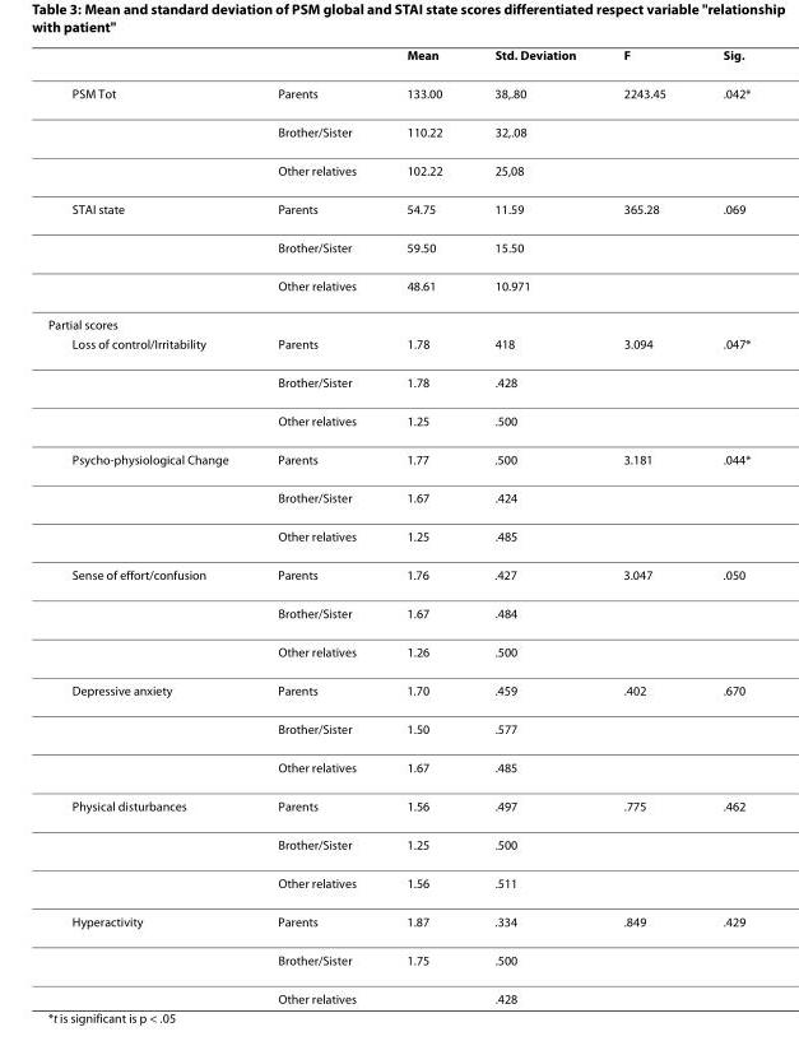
<table><thead><tr><td></td><td></td><td>Mean</td><td>Std. Deviation</td><td>F</td><td>Sig.</td></tr></thead><tbody><tr><td rowspan="3">PSM Tot</td><td>Parents</td><td>133.00</td><td>38,.80</td><td>2243.45</td><td>.042*</td></tr><tr><td>Brother/Sister</td><td>110.22</td><td>32,.08</td><td></td><td></td></tr><tr><td>Other relatives</td><td>102.22</td><td>25,08</td><td></td><td></td></tr><tr><td rowspan="3">STAI state</td><td>Parents</td><td>54.75</td><td>11.59</td><td>365.28</td><td>.069</td></tr><tr><td>Brother/Sister</td><td>59.50</td><td>15.50</td><td></td><td></td></tr><tr><td>Other relatives</td><td>48.61</td><td>10.971</td><td></td><td></td></tr><tr><td colspan="6">Partial scores</td></tr><tr><td rowspan="3">Loss of control/Irritability</td><td>Parents</td><td>1.78</td><td>418</td><td>3.094</td><td>.047*</td></tr><tr><td>Brother/Sister</td><td>1.78</td><td>.428</td><td></td><td></td></tr><tr><td>Other relatives</td><td>1.25</td><td>.500</td><td></td><td></td></tr><tr><td rowspan="3">Psycho-physiological Change</td><td>Parents</td><td>1.77</td><td>.500</td><td>3.181</td><td>.044*</td></tr><tr><td>Brother/Sister</td><td>1.67</td><td>.424</td><td></td><td></td></tr><tr><td>Other relatives</td><td>1.25</td><td>.485</td><td></td><td></td></tr><tr><td rowspan="3">Sense of effort/confusion</td><td>Parents</td><td>1.76</td><td>.427</td><td>3.047</td><td>.050</td></tr><tr><td>Brother/Sister</td><td>1.67</td><td>.484</td><td></td><td></td></tr><tr><td>Other relatives</td><td>1.26</td><td>.500</td><td></td><td></td></tr><tr><td rowspan="3">Depressive anxiety</td><td>Parents</td><td>1.70</td><td>.459</td><td>.402</td><td>.670</td></tr><tr><td>Brother/Sister</td><td>1.50</td><td>.577</td><td></td><td></td></tr><tr><td>Other relatives</td><td>1.67</td><td>.485</td><td></td><td></td></tr><tr><td rowspan="3">Physical disturbances</td><td>Parents</td><td>1.56</td><td>.497</td><td>.775</td><td>.462</td></tr><tr><td>Brother/Sister</td><td>1.25</td><td>.500</td><td></td><td></td></tr><tr><td>Other relatives</td><td>1.56</td><td>.511</td><td></td><td></td></tr><tr><td rowspan="3">Hyperactivity</td><td>Parents</td><td>1.87</td><td>.334</td><td>.849</td><td>.429</td></tr><tr><td>Brother/Sister</td><td>1.75</td><td>.500</td><td></td><td></td></tr><tr><td>Other relatives</td><td></td><td>.428</td><td></td><td></td></tr></tbody></table>